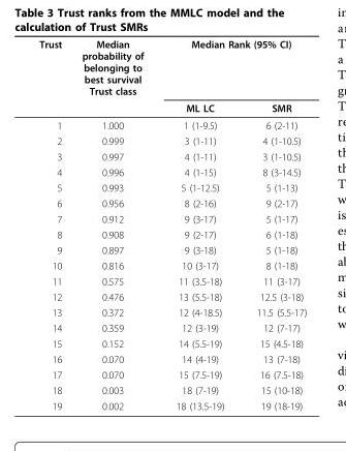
<table><thead><tr><td rowspan="2">Trust</td><td rowspan="2">Median probability of belonging to best survival Trust class</td><td colspan="2">Median Rank (95% CI)</td></tr><tr><td>ML LC</td><td>SMR</td></tr></thead><tbody><tr><td>1</td><td>1.000</td><td>1 (1-9.5)</td><td>6 (2-11)</td></tr><tr><td>2</td><td>0.999</td><td>3 (1-11)</td><td>4 (1-10.5)</td></tr><tr><td>3</td><td>0.997</td><td>4 (1-11)</td><td>3 (1-10.5)</td></tr><tr><td>4</td><td>0.996</td><td>4 (1-15)</td><td>8 (3-14.5)</td></tr><tr><td>5</td><td>0.993</td><td>5 (1-12.5)</td><td>5 (1-13)</td></tr><tr><td>6</td><td>0.956</td><td>8 (2-16)</td><td>9 (2-17)</td></tr><tr><td>7</td><td>0.912</td><td>9 (3-17)</td><td>5 (1-17)</td></tr><tr><td>8</td><td>0.908</td><td>9 (2-17)</td><td>6 (1-18)</td></tr><tr><td>9</td><td>0.897</td><td>9 (3-18)</td><td>5 (1-18)</td></tr><tr><td>10</td><td>0.816</td><td>10 (3-17)</td><td>8 (1-18)</td></tr><tr><td>11</td><td>0.575</td><td>11 (3.5-18)</td><td>11 (3-17)</td></tr><tr><td>12</td><td>0.476</td><td>13 (5.5-18)</td><td>12.5 (3-18)</td></tr><tr><td>13</td><td>0.372</td><td>12 (4-18.5)</td><td>11.5 (5.5-17)</td></tr><tr><td>14</td><td>0.359</td><td>12 (3-19)</td><td>12 (7-17)</td></tr><tr><td>15</td><td>0.152</td><td>14 (5.5-19)</td><td>15 (4.5-18)</td></tr><tr><td>16</td><td>0.070</td><td>14 (4-19)</td><td>13 (7-18)</td></tr><tr><td>17</td><td>0.070</td><td>15 (7.5-19)</td><td>16 (7.5-18)</td></tr><tr><td>18</td><td>0.003</td><td>18 (7-19)</td><td>15 (10-18)</td></tr><tr><td>19</td><td>0.002</td><td>18 (13.5-19)</td><td>19 (18-19)</td></tr></tbody></table>